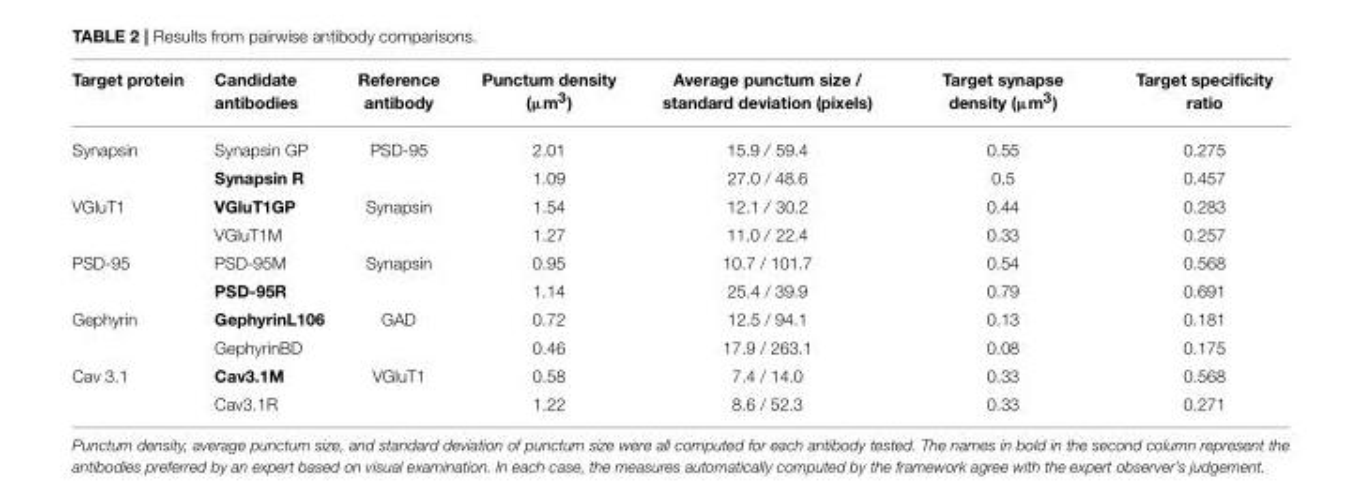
<table><thead><tr><td>Target protein</td><td>Candidate antibodies</td><td>Reference antibody</td><td>Punctum density (µm<sup>3</sup>)</td><td>Average punctum size / standard deviation (pixels)</td><td>Target synapse density (µm<sup>3</sup>)</td><td>Target specificity ratio</td></tr></thead><tbody><tr><td rowspan="2">Synapsin</td><td>Synapsin GP</td><td>PSD-95</td><td>2.01</td><td>15.9 / 59.4</td><td>0.55</td><td>0.275</td></tr><tr><td>Synapsin R</td><td></td><td>1.09</td><td>27.0 / 48.6</td><td>0.5</td><td>0.457</td></tr><tr><td rowspan="2">VGluT1</td><td>VGluT1GP</td><td>Synapsin</td><td>1.54</td><td>12.1 / 30.2</td><td>0.44</td><td>0.283</td></tr><tr><td>VGluT1M</td><td></td><td>1.27</td><td>11.0 / 22.4</td><td>0.33</td><td>0.257</td></tr><tr><td rowspan="2">PSD-95</td><td>PSD-95M</td><td>Synapsin</td><td>0.95</td><td>10.7 / 101.7</td><td>0.54</td><td>0.568</td></tr><tr><td>PSD-95R</td><td></td><td>1.14</td><td>25.4 / 39.9</td><td>0.79</td><td>0.691</td></tr><tr><td rowspan="2">Gephyrin</td><td>GephyrinL106</td><td>GAD</td><td>0.72</td><td>12.5 / 94.1</td><td>0.13</td><td>0.181</td></tr><tr><td>GephyrinBD</td><td></td><td>0.46</td><td>17.9 / 263.1</td><td>0.08</td><td>0.175</td></tr><tr><td rowspan="2">Cav 3.1</td><td>Cav3.1M</td><td>VGluT1</td><td>0.58</td><td>7.4 / 14.0</td><td>0.33</td><td>0.568</td></tr><tr><td>Cav3.1R</td><td></td><td>1.22</td><td>8.6 / 52.3</td><td>0.33</td><td>0.271</td></tr></tbody></table>